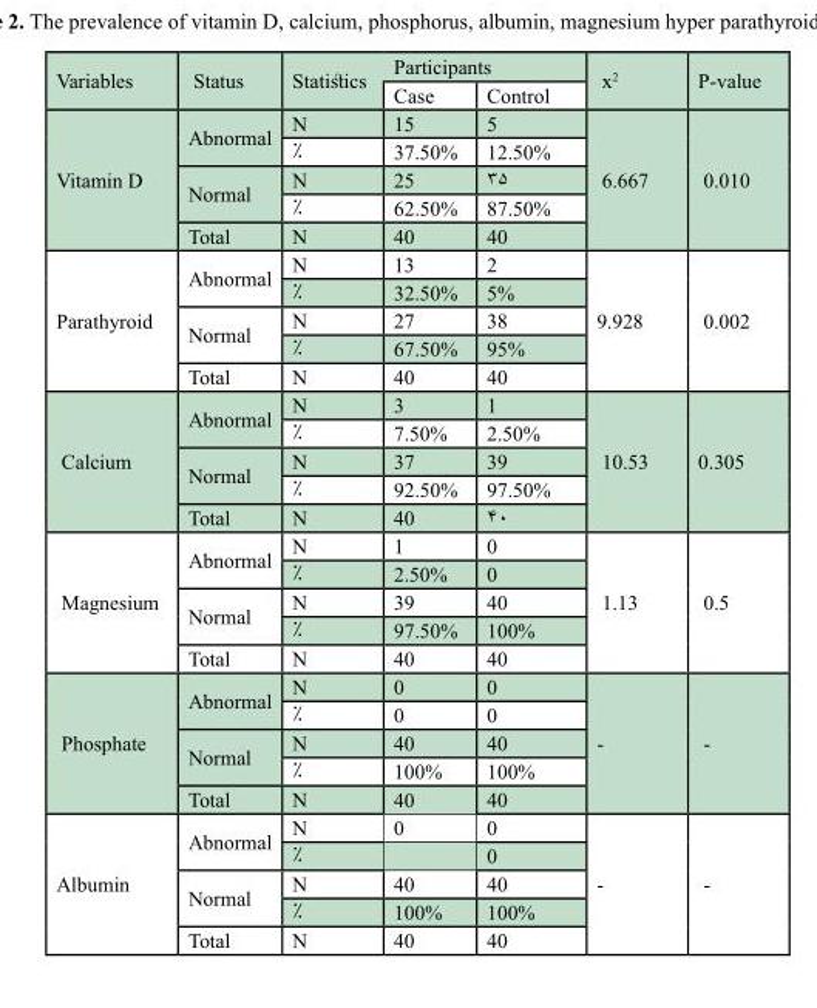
<table><thead><tr><td rowspan="2">Variables</td><td rowspan="2">Status</td><td rowspan="2">Statistics</td><td colspan="2">Participants</td><td rowspan="2">x<sup>2</sup></td><td rowspan="2">P-value</td></tr><tr><td>Case</td><td>Control</td></tr></thead><tbody><tr><td rowspan="5">Vitamin D</td><td rowspan="2">Abnormal</td><td>N</td><td>15</td><td>5</td><td rowspan="5">6.667</td><td rowspan="5">0.010</td></tr><tr><td>%</td><td>37.50%</td><td>12.50%</td></tr><tr><td rowspan="2">Normal</td><td>N</td><td>25</td><td>35</td></tr><tr><td>%</td><td>62.50%</td><td>87.50%</td></tr><tr><td>Total</td><td>N</td><td>40</td><td>40</td></tr><tr><td rowspan="5">Parathyroid</td><td rowspan="2">Abnormal</td><td>N</td><td>13</td><td>2</td><td rowspan="5">9.928</td><td rowspan="5">0.002</td></tr><tr><td>%</td><td>32.50%</td><td>5%</td></tr><tr><td rowspan="2">Normal</td><td>N</td><td>27</td><td>38</td></tr><tr><td>%</td><td>67.50%</td><td>95%</td></tr><tr><td>Total</td><td>N</td><td>40</td><td>40</td></tr><tr><td rowspan="5">Calcium</td><td rowspan="2">Abnormal</td><td>N</td><td>3</td><td>1</td><td rowspan="5">10.53</td><td rowspan="5">0.305</td></tr><tr><td>%</td><td>7.50%</td><td>2.50%</td></tr><tr><td rowspan="2">Normal</td><td>N</td><td>37</td><td>39</td></tr><tr><td>%</td><td>92.50%</td><td>97.50%</td></tr><tr><td>Total</td><td>N</td><td>40</td><td>40</td></tr><tr><td rowspan="5">Magnesium</td><td rowspan="2">Abnormal</td><td>N</td><td>1</td><td>0</td><td rowspan="5">1.13</td><td rowspan="5">0.5</td></tr><tr><td>%</td><td>2.50%</td><td>0</td></tr><tr><td rowspan="2">Normal</td><td>N</td><td>39</td><td>40</td></tr><tr><td>%</td><td>97.50%</td><td>100%</td></tr><tr><td>Total</td><td>N</td><td>40</td><td>40</td></tr><tr><td rowspan="5">Phosphate</td><td rowspan="2">Abnormal</td><td>N</td><td>0</td><td>0</td><td rowspan="5">-</td><td rowspan="5">-</td></tr><tr><td>%</td><td>0</td><td>0</td></tr><tr><td rowspan="2">Normal</td><td>N</td><td>40</td><td>40</td></tr><tr><td>%</td><td>100%</td><td>100%</td></tr><tr><td>Total</td><td>N</td><td>40</td><td>40</td></tr><tr><td rowspan="5">Albumin</td><td rowspan="2">Abnormal</td><td>N</td><td>0</td><td>0</td><td rowspan="5">-</td><td rowspan="5">-</td></tr><tr><td>%</td><td></td><td>0</td></tr><tr><td rowspan="2">Normal</td><td>N</td><td>40</td><td>40</td></tr><tr><td>%</td><td>100%</td><td>100%</td></tr><tr><td>Total</td><td>N</td><td>40</td><td>40</td></tr></tbody></table>